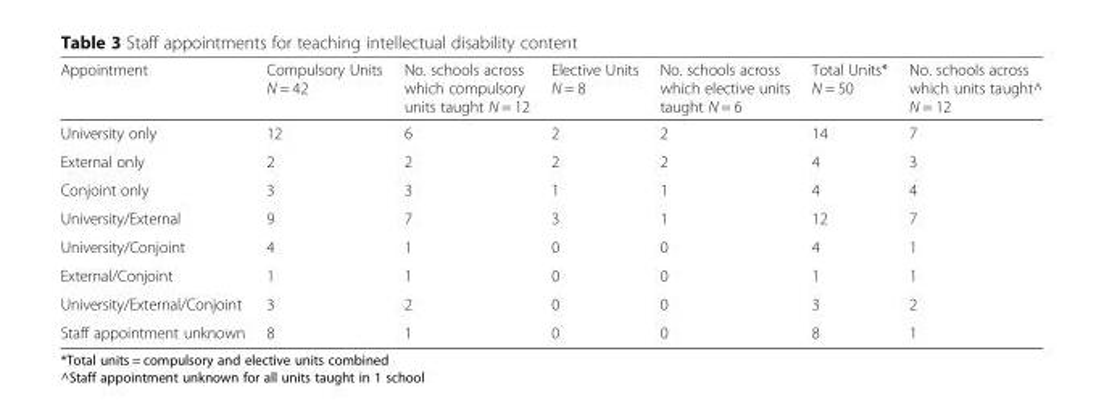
<table><thead><tr><td>Appointment</td><td>Compulsory Units N = 42</td><td>No. schools across which compulsory units taught N = 12</td><td>Elective Units N = 8</td><td>No. schools across which elective units taught N = 6</td><td>Total Units* N = 50</td><td>No. schools across which units taught^ N = 12</td></tr></thead><tbody><tr><td>University only</td><td>12</td><td>6</td><td>2</td><td>2</td><td>14</td><td>7</td></tr><tr><td>External only</td><td>2</td><td>2</td><td>2</td><td>2</td><td>4</td><td>3</td></tr><tr><td>Conjoint only</td><td>3</td><td>3</td><td>1</td><td>1</td><td>4</td><td>4</td></tr><tr><td>University/External</td><td>9</td><td>7</td><td>3</td><td>1</td><td>12</td><td>7</td></tr><tr><td>University/Conjoint</td><td>4</td><td>1</td><td>0</td><td>0</td><td>4</td><td>1</td></tr><tr><td>External/Conjoint</td><td>1</td><td>1</td><td>0</td><td>0</td><td>1</td><td>1</td></tr><tr><td>University/External/Conjoint</td><td>3</td><td>2</td><td>0</td><td>0</td><td>3</td><td>2</td></tr><tr><td>Staff appointment unknown</td><td>8</td><td>1</td><td>0</td><td>0</td><td>8</td><td>1</td></tr></tbody></table>